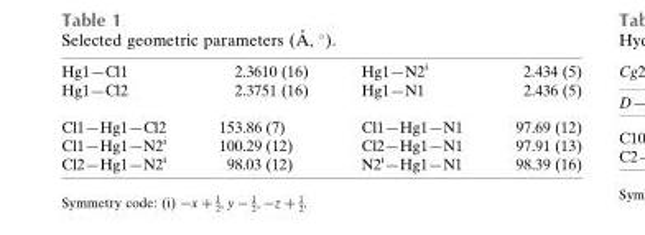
<table><tbody><tr><td>Hg1—Cl1</td><td>2.3610 (16)</td><td>Hg1—N2<sup>i</sup></td><td>2.434 (5)</td></tr><tr><td>Hg1—Cl2</td><td>2.3751 (16)</td><td>Hg1—N1</td><td>2.436 (5)</td></tr><tr><td>Cl1—Hg1—Cl2</td><td>153.86 (7)</td><td>Cl1—Hg1—N1</td><td>97.69 (12)</td></tr><tr><td>Cl1—Hg1—N2<sup>i</sup></td><td>100.29 (12)</td><td>Cl2—Hg1—N1</td><td>97.91 (13)</td></tr><tr><td>Cl2—Hg1—N2<sup>i</sup></td><td>98.03 (12)</td><td>N2<sup>i</sup>—Hg1—N1</td><td>98.39 (16)</td></tr></tbody></table>